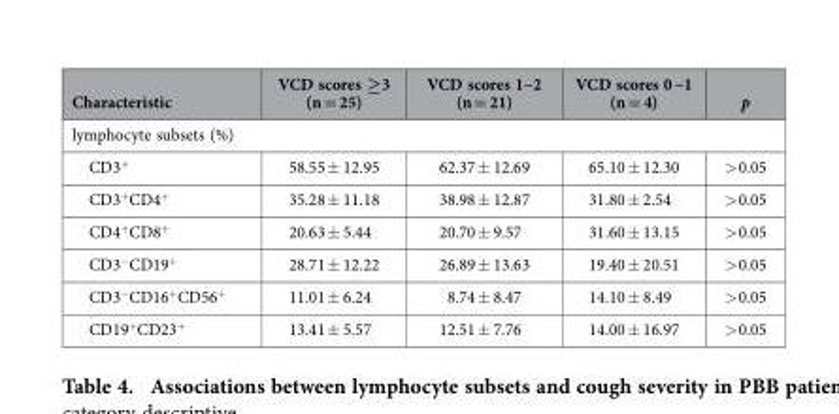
<table><thead><tr><td>Characteristic</td><td>VCD scores ≥ 3 (n = 25)</td><td>VCD scores 1~2 (n = 21)</td><td>VCD scores 0 ~1 (n = 4)</td><td>p</td></tr></thead><tbody><tr><td colspan="5">lymphocyte subsets (%)</td></tr><tr><td>CD3<sup>+</sup></td><td>58.55 ± 12.95</td><td>62.37 ± 12.69</td><td>65.10 ± 12.30</td><td>&gt; 0.05</td></tr><tr><td>CD3<sup>+</sup>CD4<sup>+</sup></td><td>35.28 ± 11.18</td><td>38.98 ± 12.87</td><td>31.80 ± 2.54</td><td>&gt; 0.05</td></tr><tr><td>CD4<sup>+</sup>CD8<sup>+</sup></td><td>20.63 ± 5.44</td><td>20.70 ± 9.57</td><td>31.60 ± 13.15</td><td>&gt; 0.05</td></tr><tr><td>CD3<sup>−</sup>CD19<sup>+</sup></td><td>28.71 ± 12.22</td><td>26.89 ± 13.63</td><td>19.40 ± 20.51</td><td>&gt; 0.05</td></tr><tr><td>CD3<sup>−</sup>CD16<sup>+</sup>CD56<sup>+</sup></td><td>11.01 ± 6.24</td><td>8.74 ± 8.47</td><td>14.10 ± 8.49</td><td>&gt; 0.05</td></tr><tr><td>CD19<sup>+</sup>CD23<sup>+</sup></td><td>13.41 ± 5.57</td><td>12.51 ± 7.76</td><td>14.00 ± 16.97</td><td>&gt; 0.05</td></tr></tbody></table>